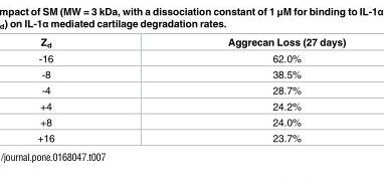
<table><thead><tr><td>Z<sub>d</sub></td><td>Aggrecan Loss (27 days)</td></tr></thead><tbody><tr><td>-16</td><td>62.0%</td></tr><tr><td>-8</td><td>38.5%</td></tr><tr><td>-4</td><td>28.7%</td></tr><tr><td>+4</td><td>24.2%</td></tr><tr><td>+8</td><td>24.0%</td></tr><tr><td>+16</td><td>23.7%</td></tr></tbody></table>